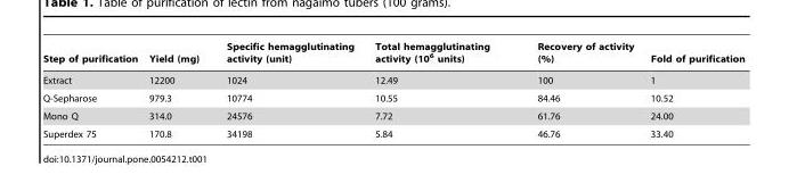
<table><thead><tr><td>Step of purification</td><td>Yield (mg)</td><td>Specific hemagglutinating activity (unit)</td><td>Total hemagglutinating activity (10<sup>6</sup> units)</td><td>Recovery of activity (%)</td><td>Fold of purification</td></tr></thead><tbody><tr><td>Extract</td><td>12200</td><td>1024</td><td>12.49</td><td>100</td><td>1</td></tr><tr><td>Q-Sepharose</td><td>979.3</td><td>10774</td><td>10.55</td><td>84.46</td><td>10.52</td></tr><tr><td>Mono Q</td><td>314.0</td><td>24576</td><td>7.72</td><td>61.76</td><td>24.00</td></tr><tr><td>Superdex 75</td><td>170.8</td><td>34198</td><td>5.84</td><td>46.76</td><td>33.40</td></tr></tbody></table>